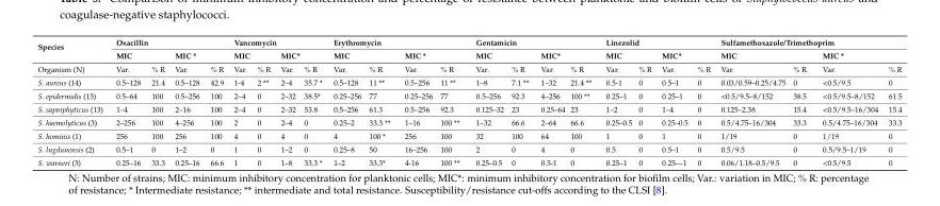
<table><thead><tr><td rowspan="3">Species Organism (N)</td><td colspan="4">Oxacillin</td><td colspan="4">Vancomycin</td><td colspan="4">Erythromycin</td><td colspan="4">Gentamicin</td><td colspan="4">Linezolid</td><td colspan="4">Sulfamethoxazole/Trimethoprim</td></tr><tr><td colspan="2">MIC</td><td colspan="2">MIC *</td><td colspan="2">MIC</td><td colspan="2">MIC*</td><td colspan="2">MIC</td><td colspan="2">MIC *</td><td colspan="2">MIC</td><td colspan="2">MIC*</td><td colspan="2">MIC</td><td colspan="2">MIC*</td><td colspan="2">MIC</td><td colspan="2">MIC *</td></tr><tr><td>Var.</td><td>% R</td><td>Var.</td><td>% R</td><td>Var.</td><td>% R</td><td>Var.</td><td>% R</td><td>Var.</td><td>% R</td><td>Var.</td><td>% R</td><td>Var.</td><td>% R</td><td>Var.</td><td>% R</td><td>Var.</td><td>% R</td><td>Var.</td><td>% R</td><td>Var.</td><td>% R</td><td>Var.</td><td>% R</td></tr></thead><tbody><tr><td>S. aureus (14)</td><td>0.5–128</td><td>21.4</td><td>0.5–128</td><td>42.9</td><td>1-4</td><td>2 **</td><td>2–4</td><td>35.7 *</td><td>0.5–128</td><td>11 **</td><td>0.5–256</td><td>11 **</td><td>1–8</td><td>7.1 **</td><td>1–32</td><td>21.4 **</td><td>0.5-1</td><td>0</td><td>0.5–1</td><td>0</td><td>0.03/0.59–0.25/4.75</td><td>0</td><td>&lt;0.5/9.5</td><td>0</td></tr><tr><td>S. epidermidis (13)</td><td>0.5–64</td><td>100</td><td>0.5–256</td><td>100</td><td>2–4</td><td>0</td><td>2–32</td><td>38.5*</td><td>0.25–256</td><td>77</td><td>0.25–256</td><td>77</td><td>0.5–256</td><td>92.3</td><td>4–256</td><td>100 **</td><td>0.25–1</td><td>0</td><td>0.25–1</td><td>0</td><td>&lt;0.5/9.5–8/152</td><td>38.5</td><td>&lt;0.5/9.5–8/152</td><td>61.5</td></tr><tr><td>S. saprophyticus (13)</td><td>1–4</td><td>100</td><td>2–16</td><td>100</td><td>2–4</td><td>0</td><td>2–32</td><td>53.8</td><td>0.5–256</td><td>61.3</td><td>0.5–256</td><td>92.3</td><td>0.125–32</td><td>23</td><td>0.25–64</td><td>23</td><td>1–2</td><td>0</td><td>1–4</td><td>0</td><td>0.125–2.38</td><td>15.4</td><td>&lt;0.5/9.5–16/304</td><td>15.4</td></tr><tr><td>S. haemolyticus (3)</td><td>2–256</td><td>100</td><td>4–256</td><td>100</td><td>2</td><td>0</td><td>2–4</td><td>0</td><td>0.25–2</td><td>33.3 **</td><td>1–16</td><td>100 **</td><td>1–32</td><td>66.6</td><td>2–64</td><td>66.6</td><td>0.25–0.5</td><td>0</td><td>0.25–0.5</td><td>0</td><td>0.5/4.75–16/304</td><td>33.3</td><td>0.5/4.75–16/304</td><td>33.3</td></tr><tr><td>S. hominis (1)</td><td>256</td><td>100</td><td>256</td><td>100</td><td>4</td><td>0</td><td>4</td><td>0</td><td>4</td><td>100 *</td><td>256</td><td>100</td><td>32</td><td>100</td><td>64</td><td>100</td><td>1</td><td>0</td><td>1</td><td>0</td><td>1/19</td><td>0</td><td>1/19</td><td>0</td></tr><tr><td>S. lugdunensis (2)</td><td>0.5–1</td><td>0</td><td>1–2</td><td>0</td><td>1</td><td>0</td><td>1–2</td><td>0</td><td>0.25–8</td><td>50</td><td>16–256</td><td>100</td><td>2</td><td>0</td><td>4</td><td>0</td><td>0.5</td><td>0</td><td>0.5–1</td><td>0</td><td>0.5/9.5</td><td>0</td><td>0.5/9.5–1/19</td><td>0</td></tr><tr><td>S. warneri (3)</td><td>0.25–16</td><td>33.3</td><td>0.25–16</td><td>66.6</td><td>1</td><td>0</td><td>1–8</td><td>33.3 *</td><td>1–2</td><td>33.3*</td><td>4-16</td><td>100 **</td><td>0.25–0.5</td><td>0</td><td>0.5-1</td><td>0</td><td>0.25–1</td><td>0</td><td>0.25—1</td><td>0</td><td>0.06/1.18–0.5/9.5</td><td>0</td><td>&lt;0.5/9.5</td><td>0</td></tr></tbody></table>